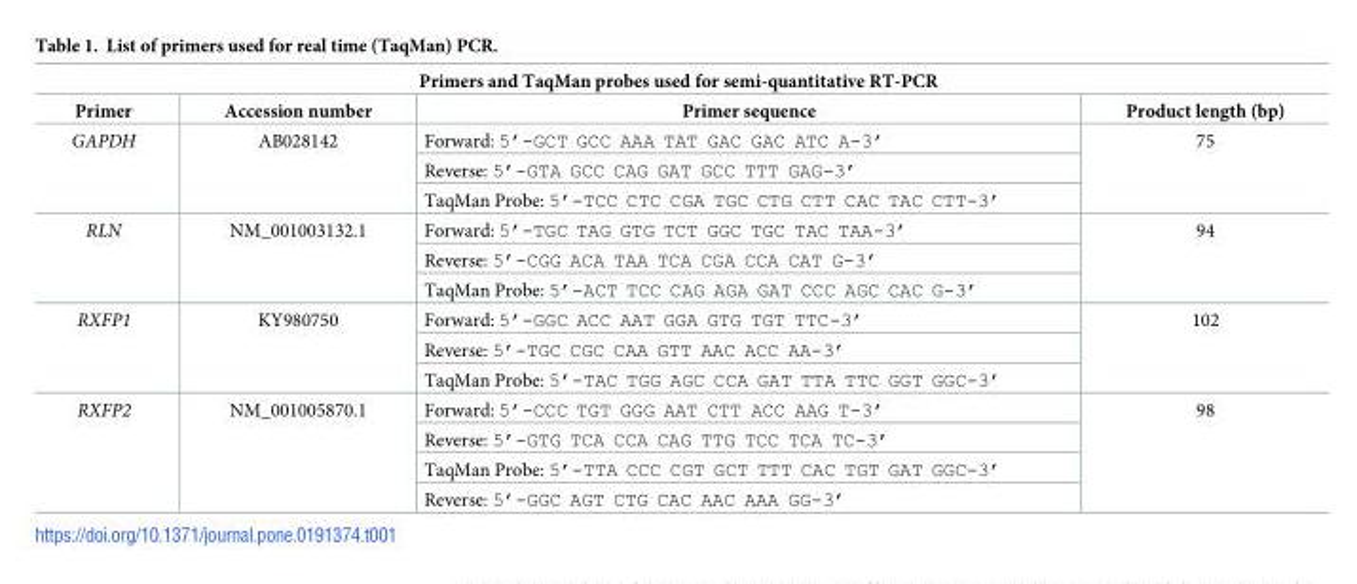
<table><thead><tr><td colspan="4">Primers and TaqMan probes used for semi-quantitative RT-PCR</td></tr><tr><td>Primer</td><td>Accession number</td><td>Primer sequence</td><td>Product length (bp)</td></tr></thead><tbody><tr><td rowspan="3">GAPDH</td><td rowspan="3">AB028142</td><td>Forward: 5’-GCT GCC AAA TAT GAC GAC ATC A-3’</td><td rowspan="3">75</td></tr><tr><td>Reverse: 5’-GTA GCC CAG GAT GCC TTT GAG-3’</td></tr><tr><td>TaqMan Probe: 5’-TCC CTC CGA TGC CTG CTT CAC TAC CTT-3’</td></tr><tr><td rowspan="3">RLN</td><td rowspan="3">NM_001003132.1</td><td>Forward: 5’-TGC TAG GTG TCT GGC TGC TAC TAA-3’</td><td rowspan="3">94</td></tr><tr><td>Reverse: 5’-CGG ACA TAA TCA CGA CCA CAT G-3’</td></tr><tr><td>TaqMan Probe: 5’-ACT TCC CAG AGA GAT CCC AGC CAC G-3’</td></tr><tr><td rowspan="3">RXFP1</td><td rowspan="3">KY980750</td><td>Forward: 5’-GGC ACC AAT GGA GTG TGT TTC-3’</td><td rowspan="3">102</td></tr><tr><td>Reverse: 5’-TGC CGC CAA GTT AAC ACC AA-3’</td></tr><tr><td>TaqMan Probe: 5’-TAC TGG AGC CCA GAT TTA TTC GGT GGC-3’</td></tr><tr><td rowspan="4">RXFP2</td><td rowspan="4">NM_001005870.1</td><td>Forward: 5’-CCC TGT GGG AAT CTT ACC AAG T-3’</td><td rowspan="4">98</td></tr><tr><td>Reverse: 5’-GTG TCA CCA CAG TTG TCC TCA TC-3’</td></tr><tr><td>TaqMan Probe: 5’-TTA CCC CGT GCT TTT CAC TGT GAT GGC-3’</td></tr><tr><td>Reverse: 5’-GGC AGT CTG CAC AAC AAA GG-3’</td></tr></tbody></table>